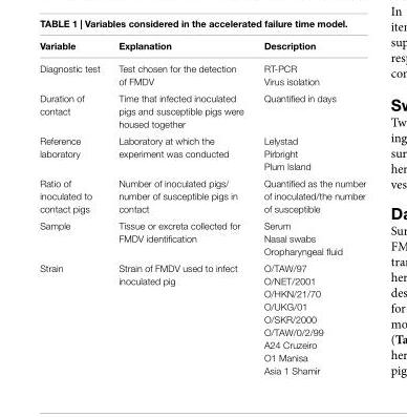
<table><thead><tr><td>Variable</td><td>explanation</td><td>Description</td></tr></thead><tbody><tr><td rowspan="2">Diagnostic test</td><td rowspan="2">Test chosen for the detection of FMDV</td><td>RT-PCR</td></tr><tr><td>Virus isolation</td></tr><tr><td>Duration of contact</td><td>Time that infected inoculated pigs and susceptible pigs were housed together</td><td>Quantified in days</td></tr><tr><td rowspan="3">Reference laboratory</td><td rowspan="3">Laboratory at which the experiment was conducted</td><td>Lelystad</td></tr><tr><td>Pirbright</td></tr><tr><td>Plum Island</td></tr><tr><td>Ratio of inoculated to contact pigs</td><td>Number of inoculated pigs/ number of susceptible pigs in contact</td><td>Quantified as the number of inoculated/the number of susceptible</td></tr><tr><td rowspan="3">Sample</td><td rowspan="3">Tissue or excreta collected for FMDV identification</td><td>Serum</td></tr><tr><td>Nasal swabs</td></tr><tr><td>Oropharyngeal fluid</td></tr><tr><td rowspan="8">Strain</td><td>Strain of FMDV used to infect inoculated pig</td><td>O/TAW/97 O/NET/2001</td></tr><tr><td></td><td>O/HKN/21/70</td></tr><tr><td></td><td>O/UKG/01</td></tr><tr><td></td><td>O/SKR/2000</td></tr><tr><td></td><td>O/TAW/0/2/99</td></tr><tr><td></td><td>A24 Cruzeiro</td></tr><tr><td></td><td>O1 Manisa</td></tr><tr><td></td><td>Asia 1 Shamir</td></tr></tbody></table>